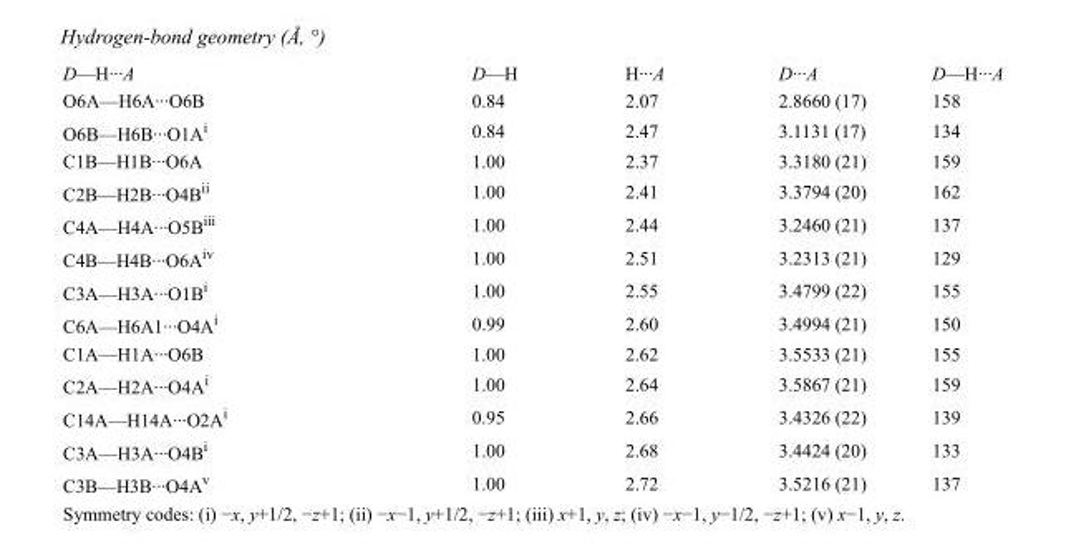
<table><tbody><tr><td>D—H···A</td><td>D—H</td><td>H···A</td><td>D···A</td><td>D—H···A</td></tr><tr><td>O6A—H6A···O6B</td><td>0.84</td><td>2.07</td><td>2.8660 (17)</td><td>158</td></tr><tr><td>O6B—H6B···O1A<sup>i</sup></td><td>0.84</td><td>2.47</td><td>3.1131 (17)</td><td>134</td></tr><tr><td>C1B—H1B···O6A</td><td>1.00</td><td>2.37</td><td>3.3180 (21)</td><td>159</td></tr><tr><td>C2B—H2B···O4B<sup>ii</sup></td><td>1.00</td><td>2.41</td><td>3.3794 (20)</td><td>162</td></tr><tr><td>C4A—H4A···O5B<sup>iii</sup></td><td>1.00</td><td>2.44</td><td>3.2460 (21)</td><td>137</td></tr><tr><td>C4B—H4B···O6A<sup>iv</sup></td><td>1.00</td><td>2.51</td><td>3.2313 (21)</td><td>129</td></tr><tr><td>C3A—H3A···O1B<sup>i</sup></td><td>1.00</td><td>2.55</td><td>3.4799 (22)</td><td>155</td></tr><tr><td>C6A—H6A1···O4A<sup>i</sup></td><td>0.99</td><td>2.60</td><td>3.4994 (21)</td><td>150</td></tr><tr><td>C1A—H1A···O6B</td><td>1.00</td><td>2.62</td><td>3.5533 (21)</td><td>155</td></tr><tr><td>C2A—H2A···O4A<sup>i</sup></td><td>1.00</td><td>2.64</td><td>3.5867 (21)</td><td>159</td></tr><tr><td>C14A—H14A···O2A<sup>i</sup></td><td>0.95</td><td>2.66</td><td>3.4326 (22)</td><td>139</td></tr><tr><td>C3A—H3A···O4B<sup>i</sup></td><td>1.00</td><td>2.68</td><td>3.4424 (20)</td><td>133</td></tr><tr><td>C3B—H3B···O4A<sup>v</sup></td><td>1.00</td><td>2.72</td><td>3.5216 (21)</td><td>137</td></tr></tbody></table>